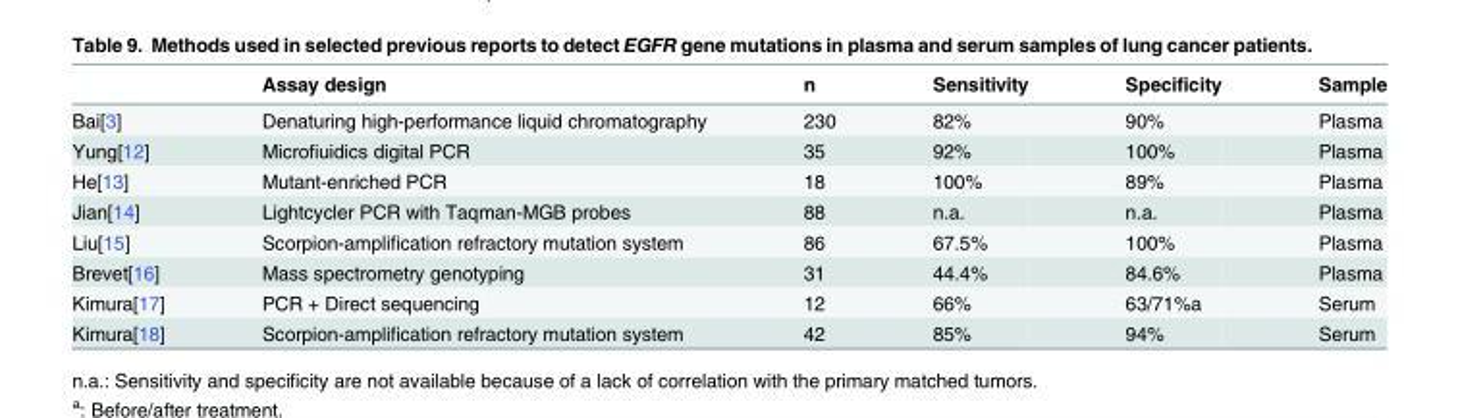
<table><thead><tr><td></td><td>Assay design</td><td>n</td><td>Sensitivity</td><td>Specificity</td><td>Sample</td></tr></thead><tbody><tr><td>Bai[3]</td><td>Denaturing high-performance liquid chromatography</td><td>230</td><td>82%</td><td>90%</td><td>Plasma</td></tr><tr><td>Yung[12]</td><td>Microfiuidics digital PCR</td><td>35</td><td>92%</td><td>100%</td><td>Plasma</td></tr><tr><td>He[13]</td><td>Mutant-enriched PCR</td><td>18</td><td>100%</td><td>89%</td><td>Plasma</td></tr><tr><td>Jian[14]</td><td>Lightcycler PCR with Taqman-MGB probes</td><td>88</td><td>n.a.</td><td>n.a.</td><td>Plasma</td></tr><tr><td>Liu[15]</td><td>Scorpion-amplification refractory mutation system</td><td>86</td><td>67.5%</td><td>100%</td><td>Plasma</td></tr><tr><td>Brevet[16]</td><td>Mass spectrometry genotyping</td><td>31</td><td>44.4%</td><td>84.6%</td><td>Plasma</td></tr><tr><td>Kimura[17]</td><td>PCR + Direct sequencing</td><td>12</td><td>66%</td><td>63/71%<sup>a</sup></td><td>Serum</td></tr><tr><td>Kimura[18]</td><td>Scorpion-amplification refractory mutation system</td><td>42</td><td>85%</td><td>94%</td><td>Serum</td></tr></tbody></table>